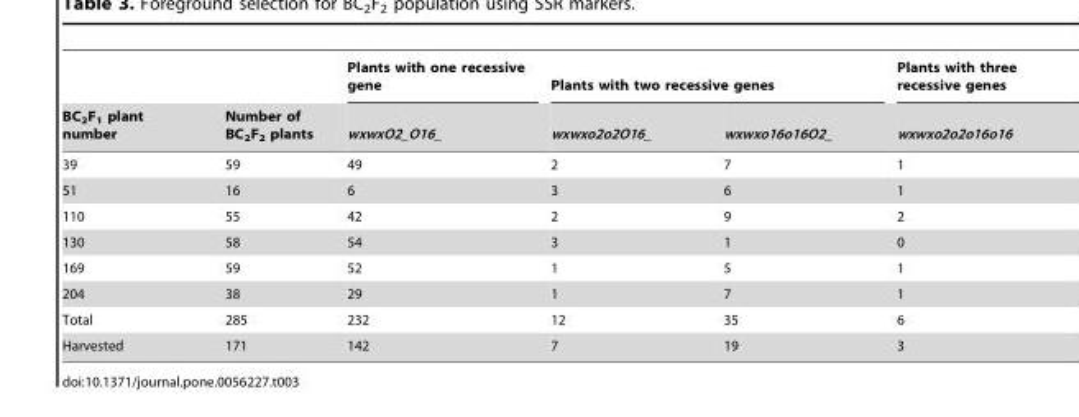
<table><thead><tr><td rowspan="2">BC<sub>2</sub>F<sub>1</sub> plant number</td><td rowspan="2">Number of BC<sub>2</sub>F<sub>2</sub> plants</td><td rowspan="2">Plants with one recessive gene wxwxO2_O16_</td><td colspan="2">Plants with two recessive genes</td><td rowspan="2">Plants with three recessive genes wxwxo2o2o16o16</td></tr><tr><td>wxwxo2o2O16_</td><td>wxwxo16o16O2_</td></tr></thead><tbody><tr><td>39</td><td>59</td><td>49</td><td>2</td><td>7</td><td>1</td></tr><tr><td>51</td><td>16</td><td>6</td><td>3</td><td>6</td><td>1</td></tr><tr><td>110</td><td>55</td><td>42</td><td>2</td><td>9</td><td>2</td></tr><tr><td>130</td><td>58</td><td>54</td><td>3</td><td>1</td><td>0</td></tr><tr><td>169</td><td>59</td><td>52</td><td>1</td><td>5</td><td>1</td></tr><tr><td>204</td><td>38</td><td>29</td><td>1</td><td>7</td><td>1</td></tr><tr><td>Total</td><td>285</td><td>232</td><td>12</td><td>35</td><td>6</td></tr><tr><td>Harvested</td><td>171</td><td>142</td><td>7</td><td>19</td><td>3</td></tr></tbody></table>